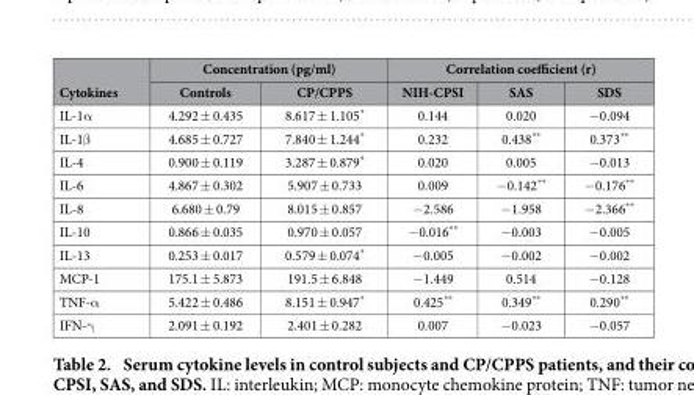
<table><thead><tr><td rowspan="2">Cytokines</td><td colspan="2">Concentration (pg/ml)</td><td colspan="3">Correlation coefficient (r)</td></tr><tr><td>Controls</td><td>CP/CPPS</td><td>NIH-CPSI</td><td>SAS</td><td>SDS</td></tr></thead><tbody><tr><td>IL-1α</td><td>4.292 ± 0.435</td><td>8.617 ± 1.105*</td><td>0.144</td><td>0.020</td><td>− 0.094</td></tr><tr><td>IL-1β</td><td>4.685 ± 0.727</td><td>7.840 ± 1.244*</td><td>0.232</td><td>0.438**</td><td>0.373**</td></tr><tr><td>IL-4</td><td>0.900 ± 0.119</td><td>3.287 ± 0.879*</td><td>0.020</td><td>0.005</td><td>− 0.013</td></tr><tr><td>IL-6</td><td>4.867 ± 0.302</td><td>5.907 ± 0.733</td><td>0.009</td><td>− 0.142**</td><td>− 0.176**</td></tr><tr><td>IL-8</td><td>6.680 ± 0.79</td><td>8.015 ± 0.857</td><td>− 2.586</td><td>− 1.958</td><td>− 2.366**</td></tr><tr><td>IL-10</td><td>0.866 ± 0.035</td><td>0.970 ± 0.057</td><td>− 0.016**</td><td>− 0.003</td><td>− 0.005</td></tr><tr><td>IL-13</td><td>0.253 ± 0.017</td><td>0.579 ± 0.074*</td><td>− 0.005</td><td>− 0.002</td><td>− 0.002</td></tr><tr><td>MCP-1</td><td>175.1 ± 5.873</td><td>191.5 ± 6.848</td><td>− 1.449</td><td>0.514</td><td>− 0.128</td></tr><tr><td>TNF-α</td><td>5.422 ± 0.486</td><td>8.151 ± 0.947*</td><td>0.425**</td><td>0.349**</td><td>0.290**</td></tr><tr><td>IFN-γ</td><td>2.091 ± 0.192</td><td>2.401 ± 0.282</td><td>0.007</td><td>− 0.023</td><td>− 0.057</td></tr></tbody></table>